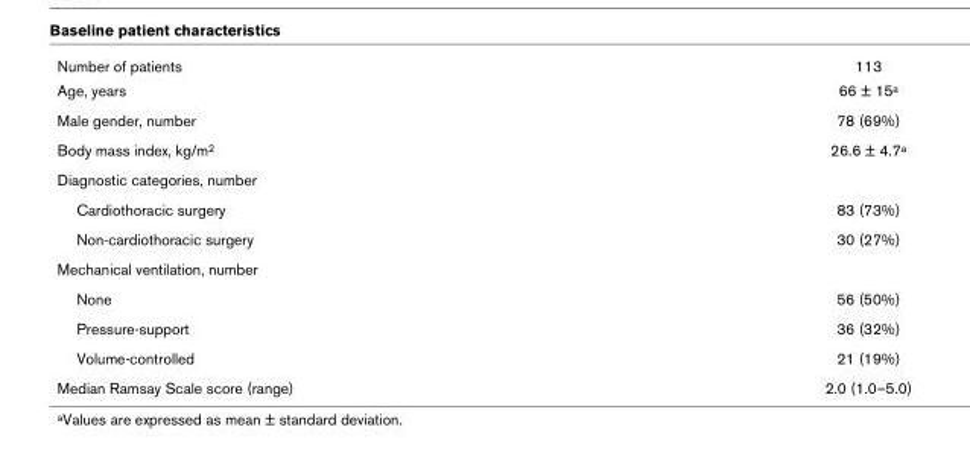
<table><tbody><tr><td>Number of patients</td><td>113</td></tr><tr><td>Age, years</td><td>66 ± 15<sup>a</sup></td></tr><tr><td>Male gender, number</td><td>78 (69%)</td></tr><tr><td>Body mass index, kg/m<sup>2</sup></td><td>26.6 ± 4.7<sup>a</sup></td></tr><tr><td colspan="2">Diagnostic categories, number</td></tr><tr><td>Cardiothoracic surgery</td><td>83 (73%)</td></tr><tr><td>Non-cardiothoracic surgery</td><td>30 (27%)</td></tr><tr><td colspan="2">Mechanical ventilation, number</td></tr><tr><td>None</td><td>56 (50%)</td></tr><tr><td>Pressure-support</td><td>36 (32%)</td></tr><tr><td>Volume-controlled</td><td>21 (19%)</td></tr><tr><td>Median Ramsay Scale score (range)</td><td>2.0 (1.0–5.0)</td></tr></tbody></table>